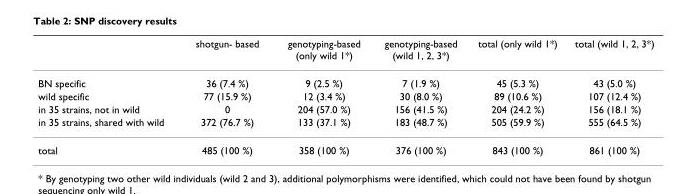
<table><thead><tr><td></td><td>shotgun- based</td><td>genotyping-based (only wild 1*)</td><td>genotyping-based (wild 1, 2, 3*)</td><td>total (only wild 1*)</td><td>total (wild 1, 2, 3*)</td></tr></thead><tbody><tr><td>BN specific</td><td>36 (7.4 %)</td><td>9 (2.5 %)</td><td>7 (1.9 %)</td><td>45 (5.3 %)</td><td>43 (5.0 %)</td></tr><tr><td>wild specific</td><td>77 (15.9 %)</td><td>12 (3.4 %)</td><td>30 (8.0 %)</td><td>89 (10.6 %)</td><td>107 (12.4 %)</td></tr><tr><td>in 35 strains, not in wild</td><td>0</td><td>204 (57.0 %)</td><td>156 (41.5 %)</td><td>204 (24.2 %)</td><td>156 (18.1 %)</td></tr><tr><td>in 35 strains, shared with wild</td><td>372 (76.7 %)</td><td>133 (37.1 %)</td><td>183 (48.7 %)</td><td>505 (59.9 %)</td><td>555 (64.5 %)</td></tr><tr><td>total</td><td>485 (100 %)</td><td>358 (100 %)</td><td>376 (100 %)</td><td>843 (100 %)</td><td>861 (100 %)</td></tr></tbody></table>